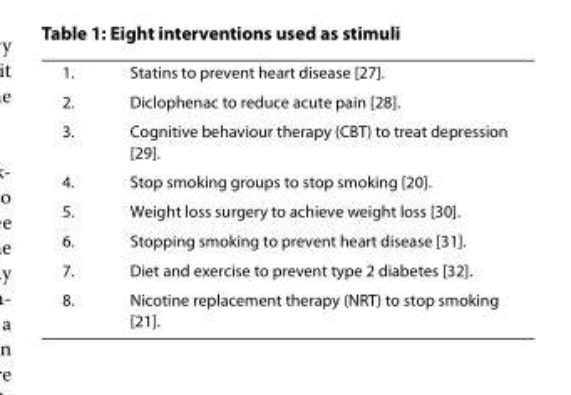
<table><tbody><tr><td>1.</td><td>Statins to prevent heart disease [27].</td></tr><tr><td>2.</td><td>Diclophenac to reduce acute pain [28].</td></tr><tr><td>3.</td><td>Cognitive behaviour therapy (CBT) to treat depression [29].</td></tr><tr><td>4.</td><td>Stop smoking groups to stop smoking [20].</td></tr><tr><td>5.</td><td>Weight loss surgery to achieve weight loss [30].</td></tr><tr><td>6.</td><td>Stopping smoking to prevent heart disease [31].</td></tr><tr><td>7.</td><td>Diet and exercise to prevent type 2 diabetes [32].</td></tr><tr><td>8.</td><td>Nicotine replacement therapy (NRT) to stop smoking [21].</td></tr></tbody></table>